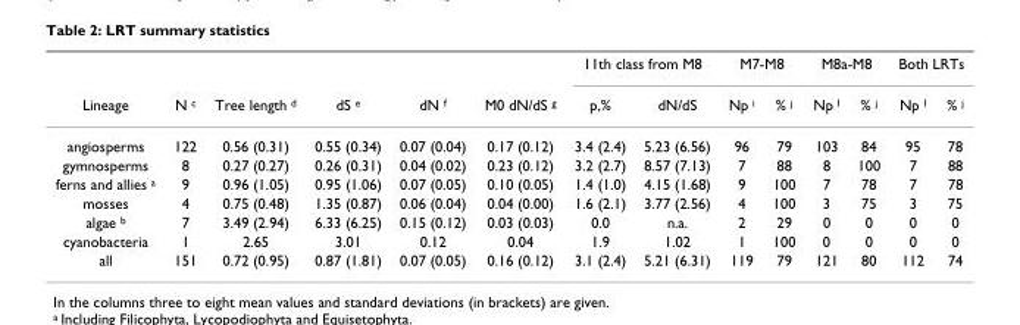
<table><thead><tr><td rowspan="2">Lineage</td><td rowspan="2">N <sup>c</sup></td><td rowspan="2">Tree length <sup>d</sup></td><td rowspan="2">dS <sup>e</sup></td><td rowspan="2">dN <sup>f</sup></td><td rowspan="2">M0 dN/dS <sup>g</sup></td><td colspan="2">11th class from M8</td><td colspan="2">M7-M8</td><td colspan="2">M8a-M8</td><td colspan="2">Both LRTs</td></tr><tr><td>p,%</td><td>dN/dS</td><td>Np <sup>i</sup></td><td>% <sup>j</sup></td><td>Np <sup>I</sup></td><td>% <sup>j</sup></td><td>Np <sup>I</sup></td><td>% <sup>j</sup></td></tr></thead><tbody><tr><td>angiosperms</td><td>122</td><td>0.56 (0.31)</td><td>0.55 (0.34)</td><td>0.07 (0.04)</td><td>0.17 (0.12)</td><td>3.4 (2.4)</td><td>5.23 (6.56)</td><td>96</td><td>79</td><td>103</td><td>84</td><td>95</td><td>78</td></tr><tr><td>gymnosperms</td><td>8</td><td>0.27 (0.27)</td><td>0.26 (0.31)</td><td>0.04 (0.02)</td><td>0.23 (0.12)</td><td>3.2 (2.7)</td><td>8.57 (7.13)</td><td>7</td><td>88</td><td>8</td><td>100</td><td>7</td><td>88</td></tr><tr><td>ferns and allies <sup>a</sup></td><td>9</td><td>0.96 (1.05)</td><td>0.95 (1.06)</td><td>0.07 (0.05)</td><td>0.10 (0.05)</td><td>1.4 (1.0)</td><td>4.15 (1.68)</td><td>9</td><td>100</td><td>7</td><td>78</td><td>7</td><td>78</td></tr><tr><td>mosses</td><td>4</td><td>0.75 (0.48)</td><td>1.35 (0.87)</td><td>0.06 (0.04)</td><td>0.04 (0.00)</td><td>1.6 (2.1)</td><td>3.77 (2.56)</td><td>4</td><td>100</td><td>3</td><td>75</td><td>3</td><td>75</td></tr><tr><td>algae <sup>b</sup></td><td>7</td><td>3.49 (2.94)</td><td>6.33 (6.25)</td><td>0.15 (0.12)</td><td>0.03 (0.03)</td><td>0.0</td><td>n.a.</td><td>2</td><td>29</td><td>0</td><td>0</td><td>0</td><td>0</td></tr><tr><td>cyanobacteria</td><td>1</td><td>2.65</td><td>3.01</td><td>0.12</td><td>0.04</td><td>1.9</td><td>1.02</td><td>1</td><td>100</td><td>0</td><td>0</td><td>0</td><td>0</td></tr><tr><td>all</td><td>151</td><td>0.72 (0.95)</td><td>0.87 (1.81)</td><td>0.07 (0.05)</td><td>0.16 (0.12)</td><td>3.1 (2.4)</td><td>5.21 (6.31)</td><td>119</td><td>79</td><td>121</td><td>80</td><td>112</td><td>74</td></tr></tbody></table>